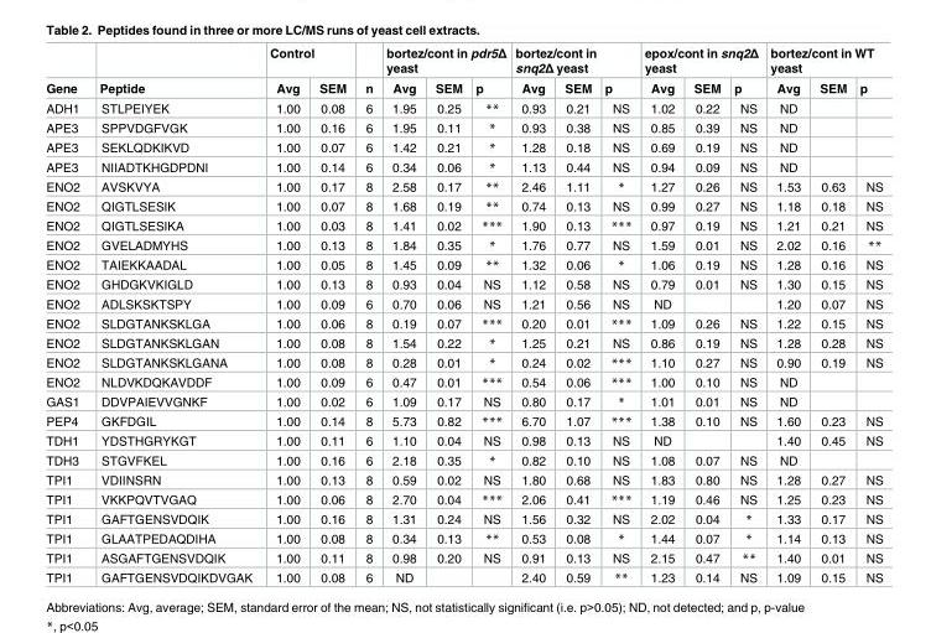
<table><thead><tr><td rowspan="2">Gene</td><td rowspan="2">Peptide</td><td colspan="2">Control</td><td rowspan="2">n</td><td colspan="3">bortez/cont in pdr5Δ yeast</td><td colspan="3">bortez/cont in snq2Δ yeast</td><td colspan="3">epox/cont in snq2Δ yeast</td><td colspan="3">bortez/cont in WT yeast</td></tr><tr><td>Avg</td><td>SEM</td><td>Avg</td><td>SEM</td><td>p</td><td>Avg</td><td>SEM</td><td>p</td><td>Avg</td><td>SEM</td><td>p</td><td>Avg</td><td>SEM</td><td>p</td></tr></thead><tbody><tr><td>ADH1</td><td>STLPEIYEK</td><td>1.00</td><td>0.08</td><td>6</td><td>1.95</td><td>0.25</td><td>**</td><td>0.93</td><td>0.21</td><td>NS</td><td>1.02</td><td>0.22</td><td>NS</td><td>ND</td><td></td><td></td></tr><tr><td>APE3</td><td>SPPVDGFVGK</td><td>1.00</td><td>0.16</td><td>6</td><td>1.95</td><td>0.11</td><td>*</td><td>0.93</td><td>0.38</td><td>NS</td><td>0.85</td><td>0.39</td><td>NS</td><td>ND</td><td></td><td></td></tr><tr><td>APE3</td><td>SEKLQDKIKVD</td><td>1.00</td><td>0.07</td><td>6</td><td>1.42</td><td>0.21</td><td>*</td><td>1.28</td><td>0.18</td><td>NS</td><td>0.69</td><td>0.19</td><td>NS</td><td>ND</td><td></td><td></td></tr><tr><td>APE3</td><td>NIIADTKHGDPDNI</td><td>1.00</td><td>0.14</td><td>6</td><td>0.34</td><td>0.06</td><td>*</td><td>1.13</td><td>0.44</td><td>NS</td><td>0.94</td><td>0.09</td><td>NS</td><td>ND</td><td></td><td></td></tr><tr><td>ENO2</td><td>AVSKVYA</td><td>1.00</td><td>0.17</td><td>8</td><td>2.58</td><td>0.17</td><td>**</td><td>2.46</td><td>1.11</td><td>*</td><td>1.27</td><td>0.26</td><td>NS</td><td>1.53</td><td>0.63</td><td>NS</td></tr><tr><td>ENO2</td><td>QIGTLSESIK</td><td>1.00</td><td>0.07</td><td>8</td><td>1.68</td><td>0.19</td><td>**</td><td>0.74</td><td>0.13</td><td>NS</td><td>0.99</td><td>0.27</td><td>NS</td><td>1.18</td><td>0.18</td><td>NS</td></tr><tr><td>ENO2</td><td>QIGTLSESIKA</td><td>1.00</td><td>0.03</td><td>8</td><td>1.41</td><td>0.02</td><td>***</td><td>1.90</td><td>0.13</td><td>***</td><td>0.97</td><td>0.19</td><td>NS</td><td>1.21</td><td>0.21</td><td>NS</td></tr><tr><td>ENO2</td><td>GVELADMYHS</td><td>1.00</td><td>0.13</td><td>8</td><td>1.84</td><td>0.35</td><td>*</td><td>1.76</td><td>0.77</td><td>NS</td><td>1.59</td><td>0.01</td><td>NS</td><td>2.02</td><td>0.16</td><td>**</td></tr><tr><td>ENO2</td><td>TAIEKKAADAL</td><td>1.00</td><td>0.05</td><td>8</td><td>1.45</td><td>0.09</td><td>**</td><td>1.32</td><td>0.06</td><td>*</td><td>1.06</td><td>0.19</td><td>NS</td><td>1.28</td><td>0.16</td><td>NS</td></tr><tr><td>ENO2</td><td>GHDGKVKIGLD</td><td>1.00</td><td>0.13</td><td>8</td><td>0.93</td><td>0.04</td><td>NS</td><td>1.12</td><td>0.58</td><td>NS</td><td>0.79</td><td>0.01</td><td>NS</td><td>1.30</td><td>0.15</td><td>NS</td></tr><tr><td>ENO2</td><td>ADLSKSKTSPY</td><td>1.00</td><td>0.09</td><td>6</td><td>0.70</td><td>0.06</td><td>NS</td><td>1.21</td><td>0.56</td><td>NS</td><td>ND</td><td></td><td></td><td>1.20</td><td>0.07</td><td>NS</td></tr><tr><td>ENO2</td><td>SLDGTANKSKLGA</td><td>1.00</td><td>0.06</td><td>8</td><td>0.19</td><td>0.07</td><td>***</td><td>0.20</td><td>0.01</td><td>***</td><td>1.09</td><td>0.26</td><td>NS</td><td>1.22</td><td>0.15</td><td>NS</td></tr><tr><td>ENO2</td><td>SLDGTANKSKLGAN</td><td>1.00</td><td>0.08</td><td>8</td><td>1.54</td><td>0.22</td><td>*</td><td>1.25</td><td>0.21</td><td>NS</td><td>0.86</td><td>0.19</td><td>NS</td><td>1.28</td><td>0.28</td><td>NS</td></tr><tr><td>ENO2</td><td>SLDGTANKSKLGANA</td><td>1.00</td><td>0.08</td><td>8</td><td>0.28</td><td>0.01</td><td>*</td><td>0.24</td><td>0.02</td><td>***</td><td>1.10</td><td>0.27</td><td>NS</td><td>0.90</td><td>0.19</td><td>NS</td></tr><tr><td>ENO2</td><td>NLDVKDQKAVDDF</td><td>1.00</td><td>0.09</td><td>6</td><td>0.47</td><td>0.01</td><td>***</td><td>0.54</td><td>0.06</td><td>***</td><td>1.00</td><td>0.10</td><td>NS</td><td>ND</td><td></td><td></td></tr><tr><td>GAS1</td><td>DDVPAIEVVGNKF</td><td>1.00</td><td>0.02</td><td>6</td><td>1.09</td><td>0.17</td><td>NS</td><td>0.80</td><td>0.17</td><td>*</td><td>1.01</td><td>0.01</td><td>NS</td><td>ND</td><td></td><td></td></tr><tr><td>PEP4</td><td>GKFDGIL</td><td>1.00</td><td>0.14</td><td>8</td><td>5.73</td><td>0.82</td><td>***</td><td>6.70</td><td>1.07</td><td>***</td><td>1.38</td><td>0.10</td><td>NS</td><td>1.60</td><td>0.23</td><td>NS</td></tr><tr><td>TDH1</td><td>YDSTHGRYKGT</td><td>1.00</td><td>0.11</td><td>6</td><td>1.10</td><td>0.04</td><td>NS</td><td>0.98</td><td>0.13</td><td>NS</td><td>ND</td><td></td><td></td><td>1.40</td><td>0.45</td><td>NS</td></tr><tr><td>TDH3</td><td>STGVFKEL</td><td>1.00</td><td>0.16</td><td>6</td><td>2.18</td><td>0.35</td><td>*</td><td>0.82</td><td>0.10</td><td>NS</td><td>1.08</td><td>0.07</td><td>NS</td><td>ND</td><td></td><td></td></tr><tr><td>TPI1</td><td>VDIINSRN</td><td>1.00</td><td>0.13</td><td>8</td><td>0.59</td><td>0.02</td><td>NS</td><td>1.80</td><td>0.68</td><td>NS</td><td>1.83</td><td>0.80</td><td>NS</td><td>1.28</td><td>0.27</td><td>NS</td></tr><tr><td>TPI1</td><td>VKKPQVTVGAQ</td><td>1.00</td><td>0.06</td><td>8</td><td>2.70</td><td>0.04</td><td>***</td><td>2.06</td><td>0.41</td><td>***</td><td>1.19</td><td>0.46</td><td>NS</td><td>1.25</td><td>0.23</td><td>NS</td></tr><tr><td>TPI1</td><td>GAFTGENSVDQIK</td><td>1.00</td><td>0.16</td><td>8</td><td>1.31</td><td>0.24</td><td>NS</td><td>1.56</td><td>0.32</td><td>NS</td><td>2.02</td><td>0.04</td><td>*</td><td>1.33</td><td>0.17</td><td>NS</td></tr><tr><td>TPI1</td><td>GLAATPEDAQDIHA</td><td>1.00</td><td>0.08</td><td>8</td><td>0.34</td><td>0.13</td><td>**</td><td>0.53</td><td>0.08</td><td>*</td><td>1.44</td><td>0.07</td><td>*</td><td>1.14</td><td>0.13</td><td>NS</td></tr><tr><td>TPI1</td><td>ASGAFTGENSVDQIK</td><td>1.00</td><td>0.11</td><td>8</td><td>0.98</td><td>0.20</td><td>NS</td><td>0.91</td><td>0.13</td><td>NS</td><td>2.15</td><td>0.47</td><td>**</td><td>1.40</td><td>0.01</td><td>NS</td></tr><tr><td>TPI1</td><td>GAFTGENSVDQIKDVGAK</td><td>1.00</td><td>0.08</td><td>6</td><td>ND</td><td></td><td></td><td>2.40</td><td>0.59</td><td>**</td><td>1.23</td><td>0.14</td><td>NS</td><td>1.09</td><td>0.15</td><td>NS</td></tr></tbody></table>